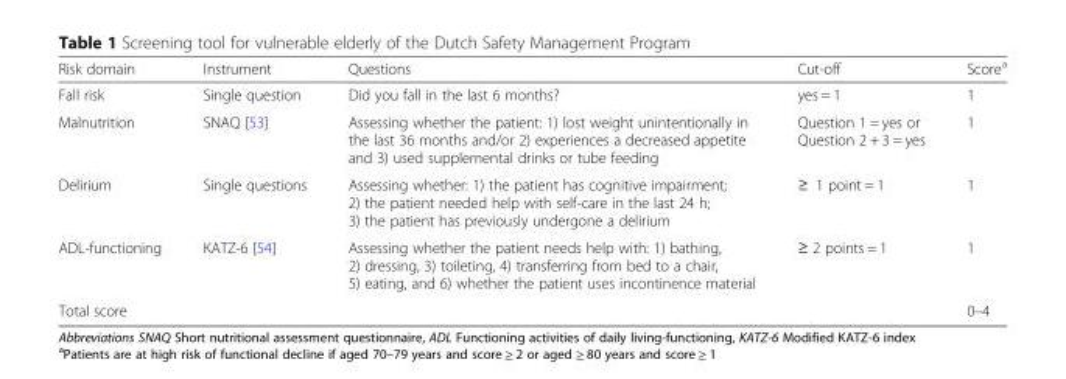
<table><thead><tr><td>Risk domain</td><td>Instrument</td><td>Questions</td><td>Cut-off</td><td>Score<sup>a</sup></td></tr></thead><tbody><tr><td>Fall risk</td><td>Single question</td><td>Did you fall in the last 6 months?</td><td>yes = 1</td><td>1</td></tr><tr><td>Malnutrition</td><td>SNAQ [53]</td><td>Assessing whether the patient: 1) lost weight unintentionally in the last 36 months and/or 2) experiences a decreased appetite and 3) used supplemental drinks or tube feeding</td><td>Question 1 = yes or Question 2 + 3 = yes</td><td>1</td></tr><tr><td>Delirium</td><td>Single questions</td><td>Assessing whether: 1) the patient has cognitive impairment; 2) the patient needed help with self-care in the last 24 h; 3) the patient has previously undergone a delirium</td><td>≥ 1 point = 1</td><td>1</td></tr><tr><td>ADL-functioning</td><td>KATZ-6 [54]</td><td>Assessing whether the patient needs help with: 1) bathing, 2) dressing, 3) toileting, 4) transferring from bed to a chair, 5) eating, and 6) whether the patient uses incontinence material</td><td>≥ 2 points = 1</td><td>1</td></tr><tr><td>Total score</td><td></td><td></td><td></td><td>0–4</td></tr></tbody></table>